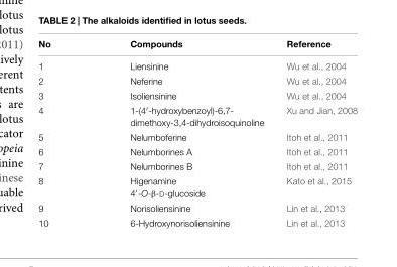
<table><thead><tr><td>No</td><td>Compounds</td><td>Reference</td></tr></thead><tbody><tr><td>1</td><td>Liensinine</td><td>Wu et al., 2004</td></tr><tr><td>2</td><td>Neferine</td><td>Wu et al., 2004</td></tr><tr><td>3</td><td>Isoliensinine</td><td>Wu et al., 2004</td></tr><tr><td>4</td><td>1-(4′-hydroxybenzoyl)-6,7- dimethoxy-3,4-dihydroisoquinoline</td><td>Xu and Jian, 2008</td></tr><tr><td>5</td><td>Nelumboferine</td><td>Itoh et al., 2011</td></tr><tr><td>6</td><td>Nelumborines A</td><td>Itoh et al., 2011</td></tr><tr><td>7</td><td>Nelumborines B</td><td>Itoh et al., 2011</td></tr><tr><td>8</td><td>Higenamine 4′-O-β-D-glucoside</td><td>Kato et al., 2015</td></tr><tr><td>9</td><td>Norisoliensinine</td><td>Lin et al., 2013</td></tr><tr><td>10</td><td>6-Hydroxynorisoliensinine</td><td>Lin et al., 2013</td></tr></tbody></table>